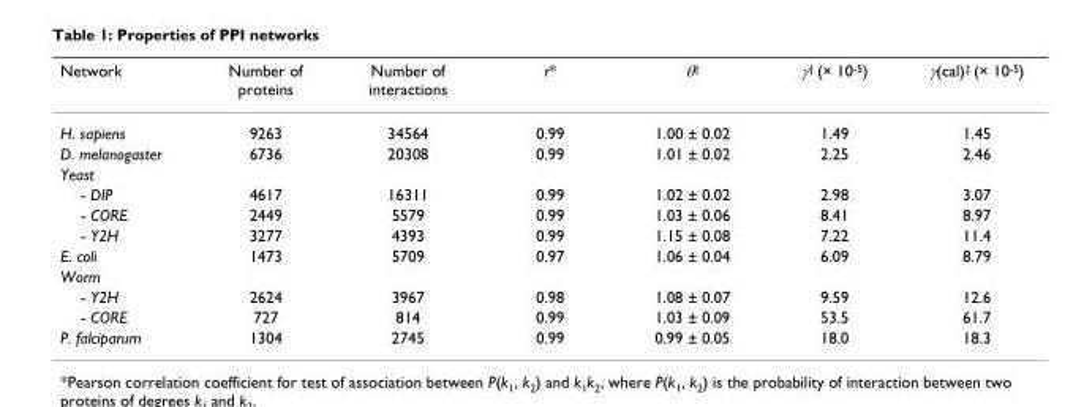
<table><thead><tr><td>Network</td><td>Number of proteins</td><td>Number of interactions</td><td>r*</td><td>θ<sup>†</sup></td><td>γ<sup>†</sup> (× 10<sup>-5</sup>)</td><td>γ(cal)<sup>‡</sup> (× 10<sup>-5</sup>)</td></tr></thead><tbody><tr><td>H. sapiens</td><td>9263</td><td>34564</td><td>0.99</td><td>1.00 ± 0.02</td><td>1.49</td><td>1.45</td></tr><tr><td>D. melanogaster</td><td>6736</td><td>20308</td><td>0.99</td><td>1.01 ± 0.02</td><td>2.25</td><td>2.46</td></tr><tr><td colspan="7">Yeast</td></tr><tr><td>- DIP</td><td>4617</td><td>16311</td><td>0.99</td><td>1.02 ± 0.02</td><td>2.98</td><td>3.07</td></tr><tr><td>- CORE</td><td>2449</td><td>5579</td><td>0.99</td><td>1.03 ± 0.06</td><td>8.41</td><td>8.97</td></tr><tr><td>- Y2H</td><td>3277</td><td>4393</td><td>0.99</td><td>1.15 ± 0.08</td><td>7.22</td><td>11.4</td></tr><tr><td>E. coli</td><td>1473</td><td>5709</td><td>0.97</td><td>1.06 ± 0.04</td><td>6.09</td><td>8.79</td></tr><tr><td colspan="7">Worm</td></tr><tr><td>- Y2H</td><td>2624</td><td>3967</td><td>0.98</td><td>1.08 ± 0.07</td><td>9.59</td><td>12.6</td></tr><tr><td>- CORE</td><td>727</td><td>814</td><td>0.99</td><td>1.03 ± 0.09</td><td>53.5</td><td>61.7</td></tr><tr><td>P. falciparum</td><td>1304</td><td>2745</td><td>0.99</td><td>0.99 ± 0.05</td><td>18.0</td><td>18.3</td></tr></tbody></table>